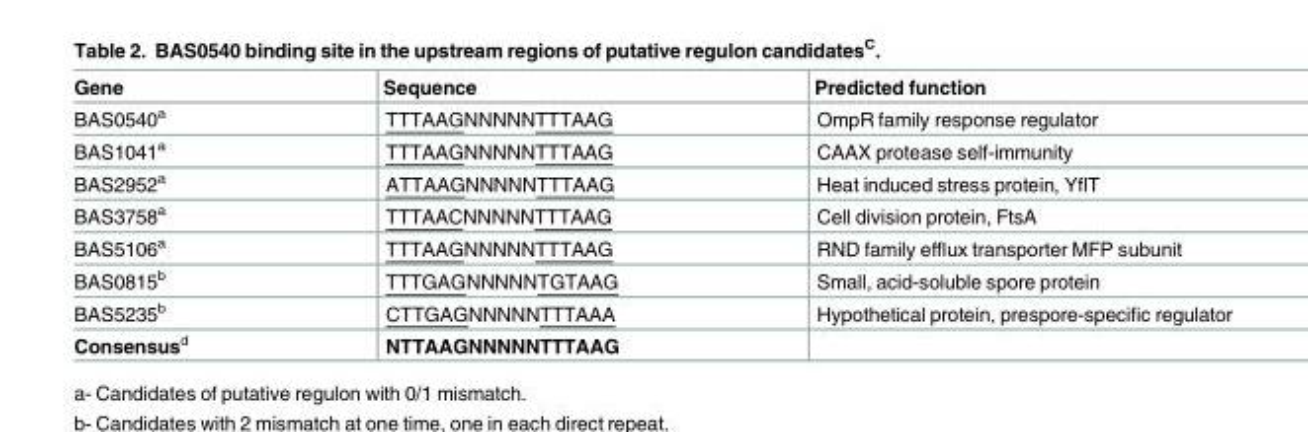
<table><thead><tr><td>Gene</td><td>Sequence</td><td>Predicted function</td></tr></thead><tbody><tr><td>BAS0540<sup>a</sup></td><td>TTTAAGNNNNNTTTAAG</td><td>OmpR family response regulator</td></tr><tr><td>BAS1041<sup>a</sup></td><td>TTTAAGNNNNNTTTAAG</td><td>CAAX protease self-immunity</td></tr><tr><td>BAS2952<sup>a</sup></td><td>ATTAAGNNNNNTTTAAG</td><td>Heat induced stress protein, YflT</td></tr><tr><td>BAS3758<sup>a</sup></td><td>TTTAACNNNNNTTTAAG</td><td>Cell division protein, FtsA</td></tr><tr><td>BAS5106<sup>a</sup></td><td>TTTAAGNNNNNTTTAAG</td><td>RND family efflux transporter MFP subunit</td></tr><tr><td>BAS0815<sup>b</sup></td><td>TTTGAGNNNNNTGTAAG</td><td>Small, acid-soluble spore protein</td></tr><tr><td>BAS5235<sup>b</sup></td><td>CTTGAGNNNNNTTTAAA</td><td>Hypothetical protein, prespore-specific regulator</td></tr><tr><td>Consensus<sup>d</sup></td><td>NTTAAGNNNNNTTTAAG</td><td></td></tr></tbody></table>